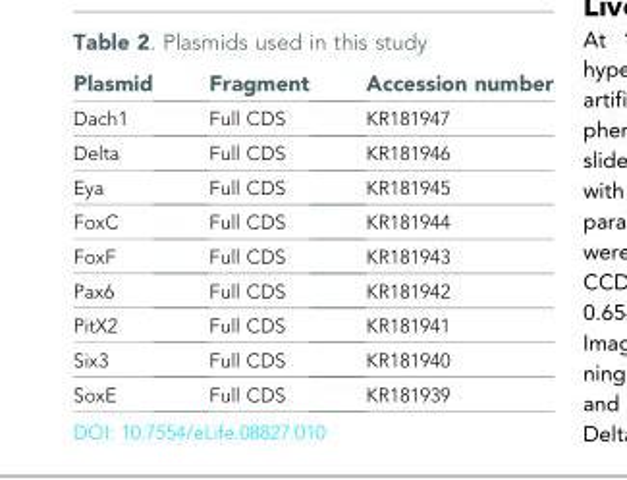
<table><thead><tr><td>Plasmid</td><td>Fragment</td><td>Accession number</td></tr></thead><tbody><tr><td>Dach1</td><td>Full CDS</td><td>KR181947</td></tr><tr><td>Delta</td><td>Full CDS</td><td>KR181946</td></tr><tr><td>Eya</td><td>Full CDS</td><td>KR181945</td></tr><tr><td>FoxC</td><td>Full CDS</td><td>KR181944</td></tr><tr><td>FoxF</td><td>Full CDS</td><td>KR181943</td></tr><tr><td>Pax6</td><td>Full CDS</td><td>KR181942</td></tr><tr><td>PitX2</td><td>Full CDS</td><td>KR181941</td></tr><tr><td>Six3</td><td>Full CDS</td><td>KR181940</td></tr><tr><td>SoxE</td><td>Full CDS</td><td>KR181939</td></tr></tbody></table>